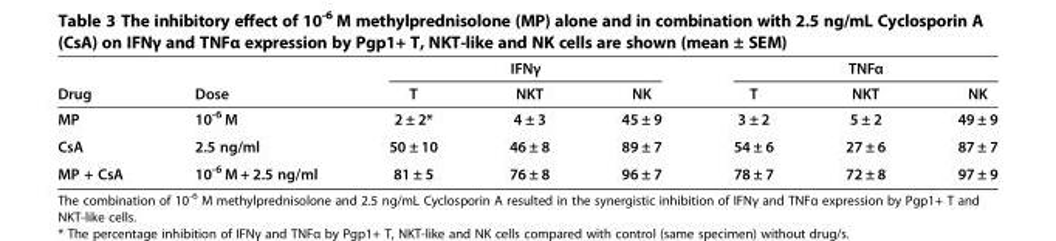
<table><thead><tr><td rowspan="2">Drug</td><td rowspan="2">Dose</td><td colspan="3">IFNγ</td><td colspan="3">TNFα</td></tr><tr><td>T</td><td>NKT</td><td>NK</td><td>T</td><td>NKT</td><td>NK</td></tr></thead><tbody><tr><td>MP</td><td>10<sup>-6</sup> M</td><td>2 ± 2*</td><td>4 ± 3</td><td>45 ± 9</td><td>3 ± 2</td><td>5 ± 2</td><td>49 ± 9</td></tr><tr><td>CsA</td><td>2.5 ng/ml</td><td>50 ± 10</td><td>46 ± 8</td><td>89 ± 7</td><td>54 ± 6</td><td>27 ± 6</td><td>87 ± 7</td></tr><tr><td>MP + CsA</td><td>10<sup>-6</sup> M + 2.5 ng/ml</td><td>81 ± 5</td><td>76 ± 8</td><td>96 ± 7</td><td>78 ± 7</td><td>72 ± 8</td><td>97 ± 9</td></tr></tbody></table>